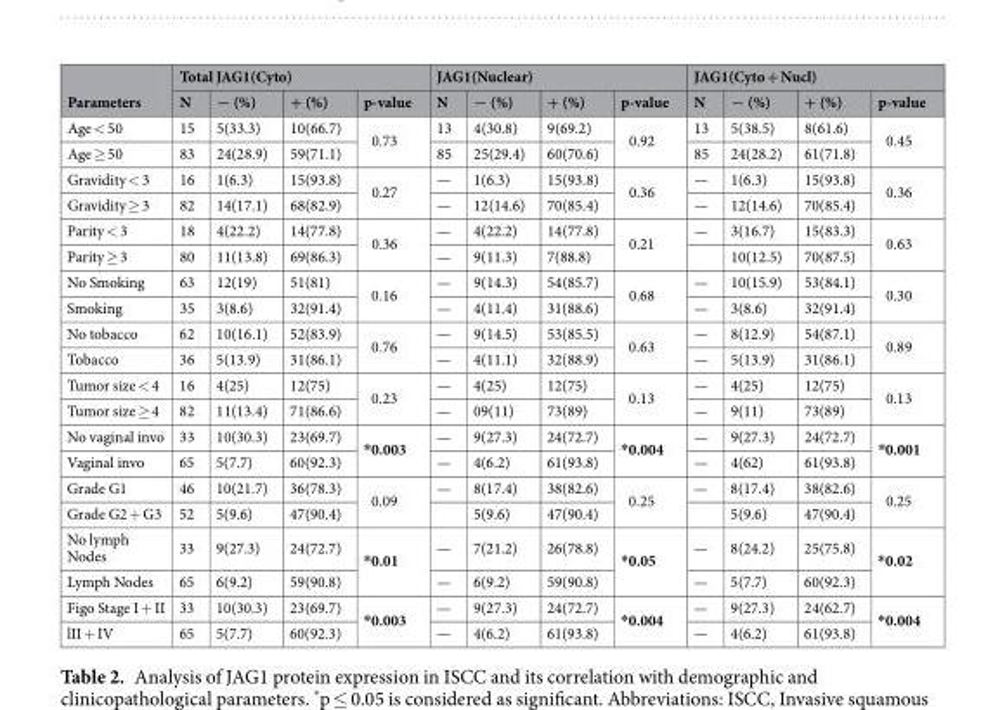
<table><thead><tr><td rowspan="2">Parameters</td><td colspan="4">Total JAG1(Cyto)</td><td colspan="4">JAG1(Nuclear)</td><td colspan="4">JAG1(Cyto + Nucl)</td></tr><tr><td>N</td><td>− (%)</td><td>+ (%)</td><td>p-value</td><td>N</td><td>− (%)</td><td>+ (%)</td><td>p-value</td><td>N</td><td>− (%)</td><td>+ (%)</td><td>p-value</td></tr></thead><tbody><tr><td>Age &lt; 50</td><td>15</td><td>5(33.3)</td><td>10(66.7)</td><td rowspan="2">0.73</td><td>13</td><td>4(30.8)</td><td>9(69.2)</td><td rowspan="2">0.92</td><td>13</td><td>5(38.5)</td><td>8(61.6)</td><td rowspan="2">0.45</td></tr><tr><td>Age ≥ 50</td><td>83</td><td>24(28.9)</td><td>59(71.1)</td><td>85</td><td>25(29.4)</td><td>60(70.6)</td><td>85</td><td>24(28.2)</td><td>61(71.8)</td></tr><tr><td>Gravidity &lt; 3</td><td>16</td><td>1(6.3)</td><td>15(93.8)</td><td rowspan="2">0.27</td><td>—</td><td>1(6.3)</td><td>15(93.8)</td><td rowspan="2">0.36</td><td>—</td><td>1(6.3)</td><td>15(93.8)</td><td rowspan="2">0.36</td></tr><tr><td>Gravidity ≥ 3</td><td>82</td><td>14(17.1)</td><td>68(82.9)</td><td>—</td><td>12(14.6)</td><td>70(85.4)</td><td>—</td><td>12(14.6)</td><td>70(85.4)</td></tr><tr><td>Parity &lt; 3</td><td>18</td><td>4(22.2)</td><td>14(77.8)</td><td rowspan="2">0.36</td><td>—</td><td>4(22.2)</td><td>14(77.8)</td><td rowspan="2">0.21</td><td>—</td><td>3(16.7)</td><td>15(83.3)</td><td rowspan="2">0.63</td></tr><tr><td>Parity ≥ 3</td><td>80</td><td>11(13.8)</td><td>69(86.3)</td><td>—</td><td>9(11.3)</td><td>7(88.8)</td><td></td><td>10(12.5)</td><td>70(87.5)</td></tr><tr><td>No Smoking</td><td>63</td><td>12(19)</td><td>51(81)</td><td rowspan="2">0.16</td><td>—</td><td>9(14.3)</td><td>54(85.7)</td><td rowspan="2">0.68</td><td>—</td><td>10(15.9)</td><td>53(84.1)</td><td rowspan="2">0.30</td></tr><tr><td>Smoking</td><td>35</td><td>3(8.6)</td><td>32(91.4)</td><td>—</td><td>4(11.4)</td><td>31(88.6)</td><td>—</td><td>3(8.6)</td><td>32(91.4)</td></tr><tr><td>No tobacco</td><td>62</td><td>10(16.1)</td><td>52(83.9)</td><td rowspan="2">0.76</td><td>—</td><td>9(14.5)</td><td>53(85.5)</td><td rowspan="2">0.63</td><td>—</td><td>8(12.9)</td><td>54(87.1)</td><td rowspan="2">0.89</td></tr><tr><td>Tobacco</td><td>36</td><td>5(13.9)</td><td>31(86.1)</td><td>—</td><td>4(11.1)</td><td>32(88.9)</td><td>—</td><td>5(13.9)</td><td>31(86.1)</td></tr><tr><td>Tumor size &lt; 4</td><td>16</td><td>4(25)</td><td>12(75)</td><td rowspan="2">0.23</td><td>—</td><td>4(25)</td><td>12(75)</td><td rowspan="2">0.13</td><td>—</td><td>4(25)</td><td>12(75)</td><td rowspan="2">0.13</td></tr><tr><td>Tumor size ≥ 4</td><td>82</td><td>11(13.4)</td><td>71(86.6)</td><td>—</td><td>09(11)</td><td>73(89)</td><td>—</td><td>9(11)</td><td>73(89)</td></tr><tr><td>No vaginal invo</td><td>33</td><td>10(30.3)</td><td>23(69.7)</td><td rowspan="2">*0.003</td><td>—</td><td>9(27.3)</td><td>24(72.7)</td><td rowspan="2">*0.004</td><td>—</td><td>9(27.3)</td><td>24(72.7)</td><td rowspan="2">*0.001</td></tr><tr><td>Vaginal invo</td><td>65</td><td>5(7.7)</td><td>60(92.3)</td><td>—</td><td>4(6.2)</td><td>61(93.8)</td><td>—</td><td>4(62)</td><td>61(93.8)</td></tr><tr><td>Grade G1</td><td>46</td><td>10(21.7)</td><td>36(78.3)</td><td rowspan="2">0.09</td><td>—</td><td>8(17.4)</td><td>38(82.6)</td><td rowspan="2">0.25</td><td>—</td><td>8(17.4)</td><td>38(82.6)</td><td rowspan="2">0.25</td></tr><tr><td>Grade G2 + G3</td><td>52</td><td>5(9.6)</td><td>47(90.4)</td><td></td><td>5(9.6)</td><td>47(90.4)</td><td></td><td>5(9.6)</td><td>47(90.4)</td></tr><tr><td>No lymph Nodes</td><td>33</td><td>9(27.3)</td><td>24(72.7)</td><td rowspan="2">*0.01</td><td>—</td><td>7(21.2)</td><td>26(78.8)</td><td rowspan="2">*0.05</td><td>—</td><td>8(24.2)</td><td>25(75.8)</td><td rowspan="2">*0.02</td></tr><tr><td>Lymph Nodes</td><td>65</td><td>6(9.2)</td><td>59(90.8)</td><td>—</td><td>6(9.2)</td><td>59(90.8)</td><td>—</td><td>5(7.7)</td><td>60(92.3)</td></tr><tr><td>Figo Stage I + II</td><td>33</td><td>10(30.3)</td><td>23(69.7)</td><td rowspan="2">*0.003</td><td>—</td><td>9(27.3)</td><td>24(72.7)</td><td rowspan="2">*0.004</td><td>—</td><td>9(27.3)</td><td>24(62.7)</td><td rowspan="2">*0.004</td></tr><tr><td>lII + IV</td><td>65</td><td>5(7.7)</td><td>60(92.3)</td><td>—</td><td>4(6.2)</td><td>61(93.8)</td><td>—</td><td>4(6.2)</td><td>61(93.8)</td></tr></tbody></table>